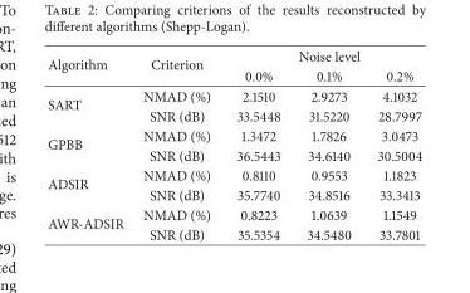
<table><thead><tr><td rowspan="2">Algorithm</td><td rowspan="2">Criterion</td><td colspan="3">Noise level</td></tr><tr><td>0.0%</td><td>0.1%</td><td>0.2%</td></tr></thead><tbody><tr><td rowspan="2">SART</td><td>NMAD (%)</td><td>2.1510</td><td>2.9273</td><td>4.1032</td></tr><tr><td>SNR (dB)</td><td>33.5448</td><td>31.5220</td><td>28.7997</td></tr><tr><td rowspan="2">GPBB</td><td>NMAD (%)</td><td>1.3472</td><td>1.7826</td><td>3.0473</td></tr><tr><td>SNR (dB)</td><td>36.5443</td><td>34.6140</td><td>30.5004</td></tr><tr><td rowspan="2">ADSIR</td><td>NMAD (%)</td><td>0.8110</td><td>0.9553</td><td>1.1823</td></tr><tr><td>SNR (dB)</td><td>35.7740</td><td>34.8516</td><td>33.3413</td></tr><tr><td rowspan="2">AWR-ADSIR</td><td>NMAD (%)</td><td>0.8223</td><td>1.0639</td><td>1.1549</td></tr><tr><td>SNR (dB)</td><td>35.5354</td><td>34.5480</td><td>33.7801</td></tr></tbody></table>